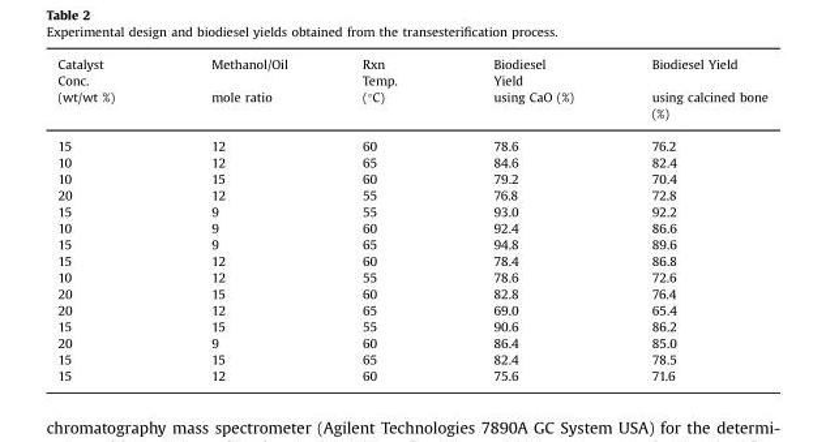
<table><thead><tr><td rowspan="2">Catalyst Conc. (wt/wt %)</td><td rowspan="2">Methanol/Oil mole ratio</td><td rowspan="2">Rxn Temp. (°C)</td><td rowspan="2">Biodiesel Yield using CaO (%)</td><td rowspan="2">Biodiesel Yield using calcined bone (%)</td></tr><tr></tr></thead><tbody><tr><td>15</td><td>12</td><td>60</td><td>78.6</td><td>76.2</td></tr><tr><td>10</td><td>12</td><td>65</td><td>84.6</td><td>82.4</td></tr><tr><td>10</td><td>15</td><td>60</td><td>79.2</td><td>70.4</td></tr><tr><td>20</td><td>12</td><td>55</td><td>76.8</td><td>72.8</td></tr><tr><td>15</td><td>9</td><td>55</td><td>93.0</td><td>92.2</td></tr><tr><td>10</td><td>9</td><td>60</td><td>92.4</td><td>86.6</td></tr><tr><td>15</td><td>9</td><td>65</td><td>94.8</td><td>89.6</td></tr><tr><td>15</td><td>12</td><td>60</td><td>78.4</td><td>86.8</td></tr><tr><td>10</td><td>12</td><td>55</td><td>78.6</td><td>72.6</td></tr><tr><td>20</td><td>15</td><td>60</td><td>82.8</td><td>76.4</td></tr><tr><td>20</td><td>12</td><td>65</td><td>69.0</td><td>65.4</td></tr><tr><td>15</td><td>15</td><td>55</td><td>90.6</td><td>86.2</td></tr><tr><td>20</td><td>9</td><td>60</td><td>86.4</td><td>85.0</td></tr><tr><td>15</td><td>15</td><td>65</td><td>82.4</td><td>78.5</td></tr><tr><td>15</td><td>12</td><td>60</td><td>75.6</td><td>71.6</td></tr></tbody></table>